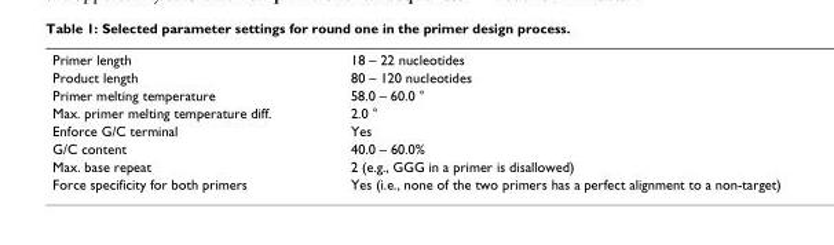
<table><tbody><tr><td>Primer length</td><td>18 – 22 nucleotides</td></tr><tr><td>Product length</td><td>80 – 120 nucleotides</td></tr><tr><td>Primer melting temperature</td><td>58.0 – 60.0 °</td></tr><tr><td>Max. primer melting temperature diff.</td><td>2.0 °</td></tr><tr><td>Enforce G/C terminal</td><td>Yes</td></tr><tr><td>G/C content</td><td>40.0 – 60.0%</td></tr><tr><td>Max. base repeat</td><td>2 (e.g., GGG in a primer is disallowed)</td></tr><tr><td>Force specificity for both primers</td><td>Yes (i.e., none of the two primers has a perfect alignment to a non-target)</td></tr></tbody></table>